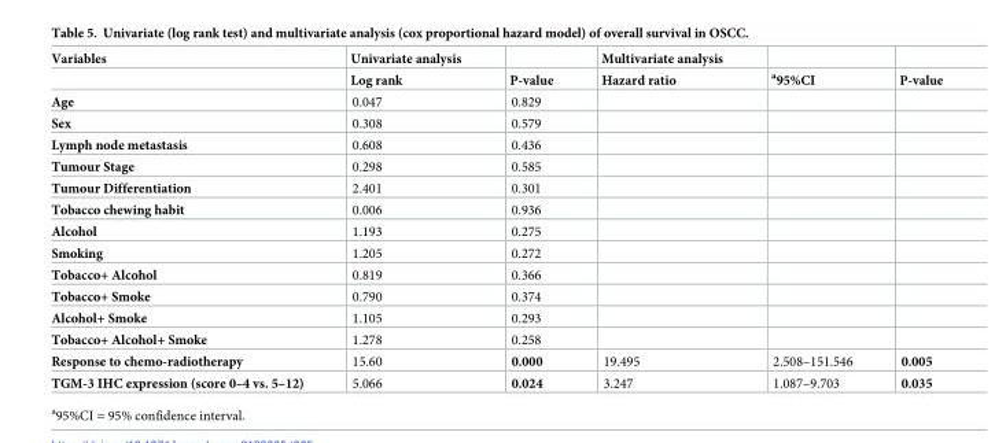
<table><thead><tr><td rowspan="2">Variables</td><td rowspan="2">Univariate analysis Log rank</td><td rowspan="2">P-value</td><td rowspan="2">Multivariate analysis Hazard ratio</td><td rowspan="2"><sup>a</sup>95%CI</td><td rowspan="2">P-value</td></tr><tr></tr></thead><tbody><tr><td>Age</td><td>0.047</td><td>0.829</td><td></td><td></td><td></td></tr><tr><td>Sex</td><td>0.308</td><td>0.579</td><td></td><td></td><td></td></tr><tr><td>Lymph node metastasis</td><td>0.608</td><td>0.436</td><td></td><td></td><td></td></tr><tr><td>Tumour Stage</td><td>0.298</td><td>0.585</td><td></td><td></td><td></td></tr><tr><td>Tumour Differentiation</td><td>2.401</td><td>0.301</td><td></td><td></td><td></td></tr><tr><td>Tobacco chewing habit</td><td>0.006</td><td>0.936</td><td></td><td></td><td></td></tr><tr><td>Alcohol</td><td>1.193</td><td>0.275</td><td></td><td></td><td></td></tr><tr><td>Smoking</td><td>1.205</td><td>0.272</td><td></td><td></td><td></td></tr><tr><td>Tobacco+ Alcohol</td><td>0.819</td><td>0.366</td><td></td><td></td><td></td></tr><tr><td>Tobacco+ Smoke</td><td>0.790</td><td>0.374</td><td></td><td></td><td></td></tr><tr><td>Alcohol+ Smoke</td><td>1.105</td><td>0.293</td><td></td><td></td><td></td></tr><tr><td>Tobacco+ Alcohol+ Smoke</td><td>1.278</td><td>0.258</td><td></td><td></td><td></td></tr><tr><td>Response to chemo-radiotherapy</td><td>15.60</td><td>0.000</td><td>19.495</td><td>2.508–151.546</td><td>0.005</td></tr><tr><td>TGM-3 IHC expression (score 0–4 vs. 5–12)</td><td>5.066</td><td>0.024</td><td>3.247</td><td>1.087–9.703</td><td>0.035</td></tr></tbody></table>